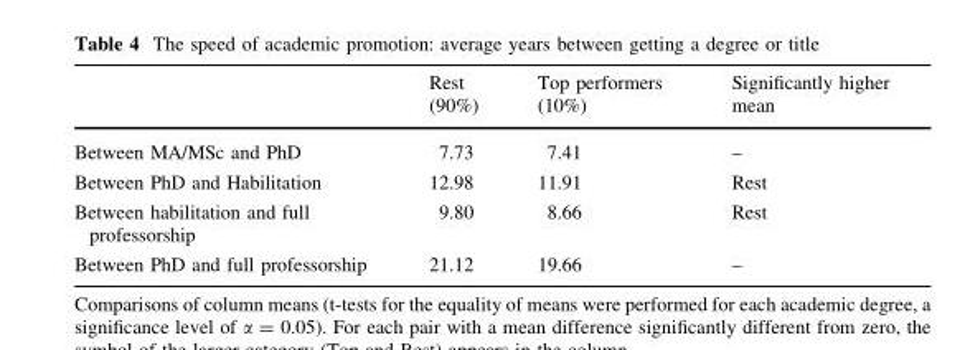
<table><thead><tr><td></td><td>Rest (90%)</td><td>Top performers (10%)</td><td>Significantly higher mean</td></tr></thead><tbody><tr><td>Between MA/MSc and PhD</td><td>7.73</td><td>7.41</td><td>–</td></tr><tr><td>Between PhD and Habilitation</td><td>12.98</td><td>11.91</td><td>Rest</td></tr><tr><td>Between habilitation and full professorship</td><td>9.80</td><td>8.66</td><td>Rest</td></tr><tr><td>Between PhD and full professorship</td><td>21.12</td><td>19.66</td><td>–</td></tr></tbody></table>